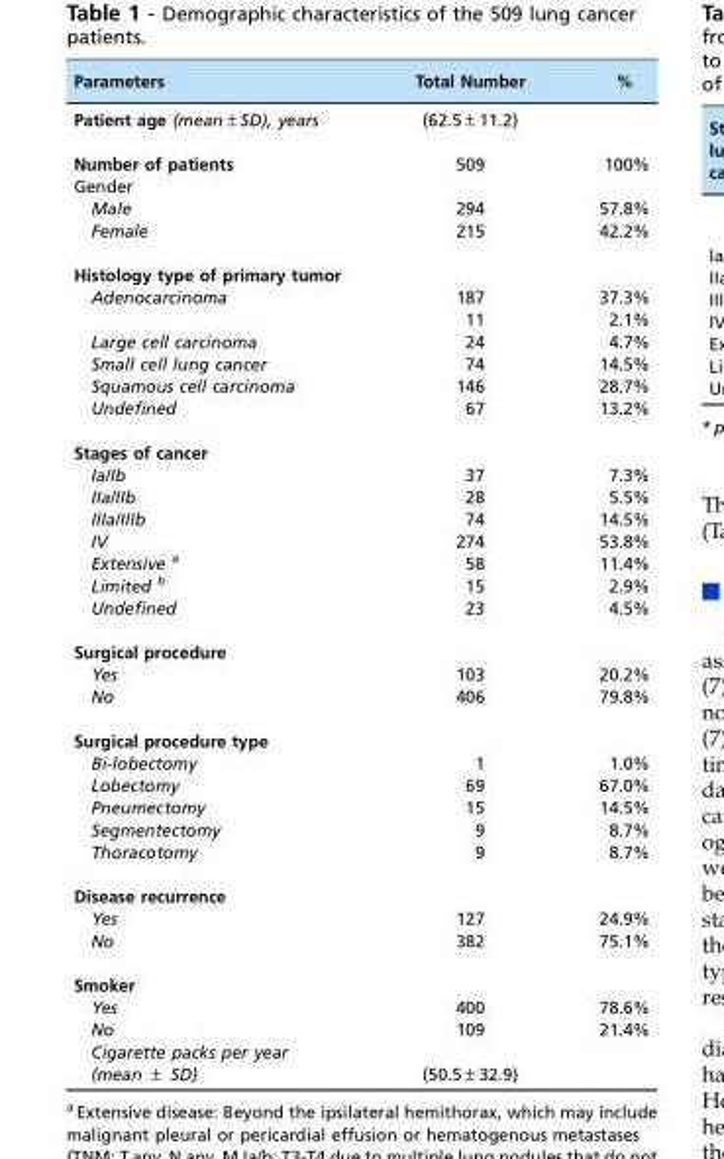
<table><thead><tr><td>Parameters</td><td>Total Number</td><td>%</td></tr></thead><tbody><tr><td>Patient age (mean±SD), years</td><td>(62.5±11.2)</td><td></td></tr><tr><td>Number of patients</td><td>509</td><td>100%</td></tr><tr><td colspan="3">Gender</td></tr><tr><td>Male</td><td>294</td><td>57.8%</td></tr><tr><td>Female</td><td>215</td><td>42.2%</td></tr><tr><td colspan="3">Histology type of primary tumor</td></tr><tr><td rowspan="2">Adenocarcinoma</td><td>187</td><td>37.3%</td></tr><tr><td>11</td><td>2.1%</td></tr><tr><td>Large cell carcinoma</td><td>24</td><td>4.7%</td></tr><tr><td>Small cell lung cancer</td><td>74</td><td>14.5%</td></tr><tr><td>Squamous cell carcinoma</td><td>146</td><td>28.7%</td></tr><tr><td>Undefined</td><td>67</td><td>13.2%</td></tr><tr><td colspan="3">Stages of cancer</td></tr><tr><td>Ia/Ib</td><td>37</td><td>7.3%</td></tr><tr><td>IIa/IIb</td><td>28</td><td>5.5%</td></tr><tr><td>IIIa/IIIb</td><td>74</td><td>14.5%</td></tr><tr><td>IV</td><td>274</td><td>53.8%</td></tr><tr><td>Extensive <sup>a</sup></td><td>58</td><td>11.4%</td></tr><tr><td>Limited <sup>b</sup></td><td>15</td><td>2.9%</td></tr><tr><td>Undefined</td><td>23</td><td>4.5%</td></tr><tr><td colspan="3">Surgical procedure</td></tr><tr><td>Yes</td><td>103</td><td>20.2%</td></tr><tr><td>No</td><td>406</td><td>79.8%</td></tr><tr><td colspan="3">Surgical procedure type</td></tr><tr><td>Bi-lobectomy</td><td>1</td><td>1.0%</td></tr><tr><td>Lobectomy</td><td>69</td><td>67.0%</td></tr><tr><td>Pneumectomy</td><td>15</td><td>14.5%</td></tr><tr><td>Segmentectomy</td><td>9</td><td>8.7%</td></tr><tr><td>Thoracotomy</td><td>9</td><td>8.7%</td></tr><tr><td colspan="3">Disease recurrence</td></tr><tr><td>Yes</td><td>127</td><td>24.9%</td></tr><tr><td>No</td><td>382</td><td>75.1%</td></tr><tr><td colspan="3">Smoker</td></tr><tr><td>Yes</td><td>400</td><td>78.6%</td></tr><tr><td>No</td><td>109</td><td>21.4%</td></tr><tr><td colspan="3">Cigarette packs per year</td></tr><tr><td>(mean ± SD)</td><td>(50.5±32.9)</td><td></td></tr></tbody></table>